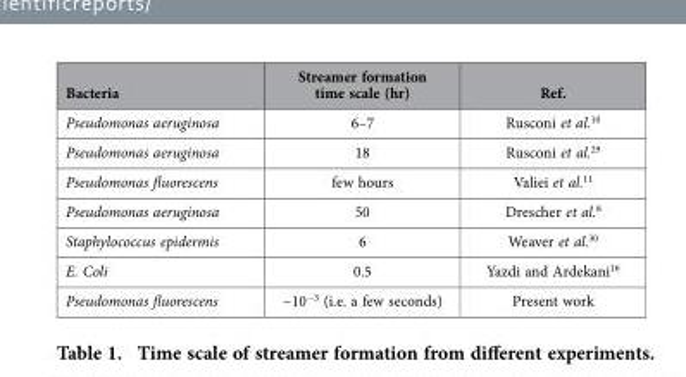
<table><thead><tr><td>Bacteria</td><td>Streamer formation time scale (hr)</td><td>Ref.</td></tr></thead><tbody><tr><td>Pseudomonas aeruginosa</td><td>6–7</td><td>Rusconi et al.<sup>10</sup></td></tr><tr><td>Pseudomonas aeruginosa</td><td>18</td><td>Rusconi et al.<sup>29</sup></td></tr><tr><td>Pseudomonas fluorescens</td><td>few hours</td><td>Valiei et al.<sup>11</sup></td></tr><tr><td>Pseudomonas aeruginosa</td><td>50</td><td>Drescher et al.<sup>8</sup></td></tr><tr><td>Staphylococcus epidermis</td><td>6</td><td>Weaver et al.<sup>30</sup></td></tr><tr><td>E. Coli</td><td>0.5</td><td>Yazdi and Ardekani<sup>16</sup></td></tr><tr><td>Pseudomonas fluorescens</td><td>~10<sup>−3</sup> (i.e. a few seconds)</td><td>Present work</td></tr></tbody></table>